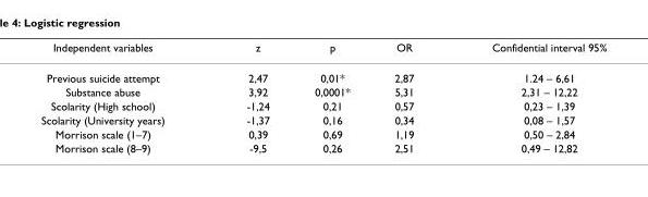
<table><thead><tr><td>Independent variables</td><td>z</td><td>p</td><td>OR</td><td>Confidential interval 95%</td></tr></thead><tbody><tr><td>Previous suicide attempt</td><td>2,47</td><td>0,01*</td><td>2,87</td><td>1.24 – 6,61</td></tr><tr><td>Substance abuse</td><td>3,92</td><td>0,0001*</td><td>5,31</td><td>2,31 – 12,22</td></tr><tr><td>Scolarity (High school)</td><td>-1,24</td><td>0,21</td><td>0,57</td><td>0,23 – 1,39</td></tr><tr><td>Scolarity (University years)</td><td>-1,37</td><td>0,16</td><td>0,34</td><td>0,08 – 1,57</td></tr><tr><td>Morrison scale (1–7)</td><td>0,39</td><td>0,69</td><td>1,19</td><td>0,50 – 2,84</td></tr><tr><td>Morrison scale (8–9)</td><td>-9,5</td><td>0,26</td><td>2,51</td><td>0,49 – 12,82</td></tr></tbody></table>